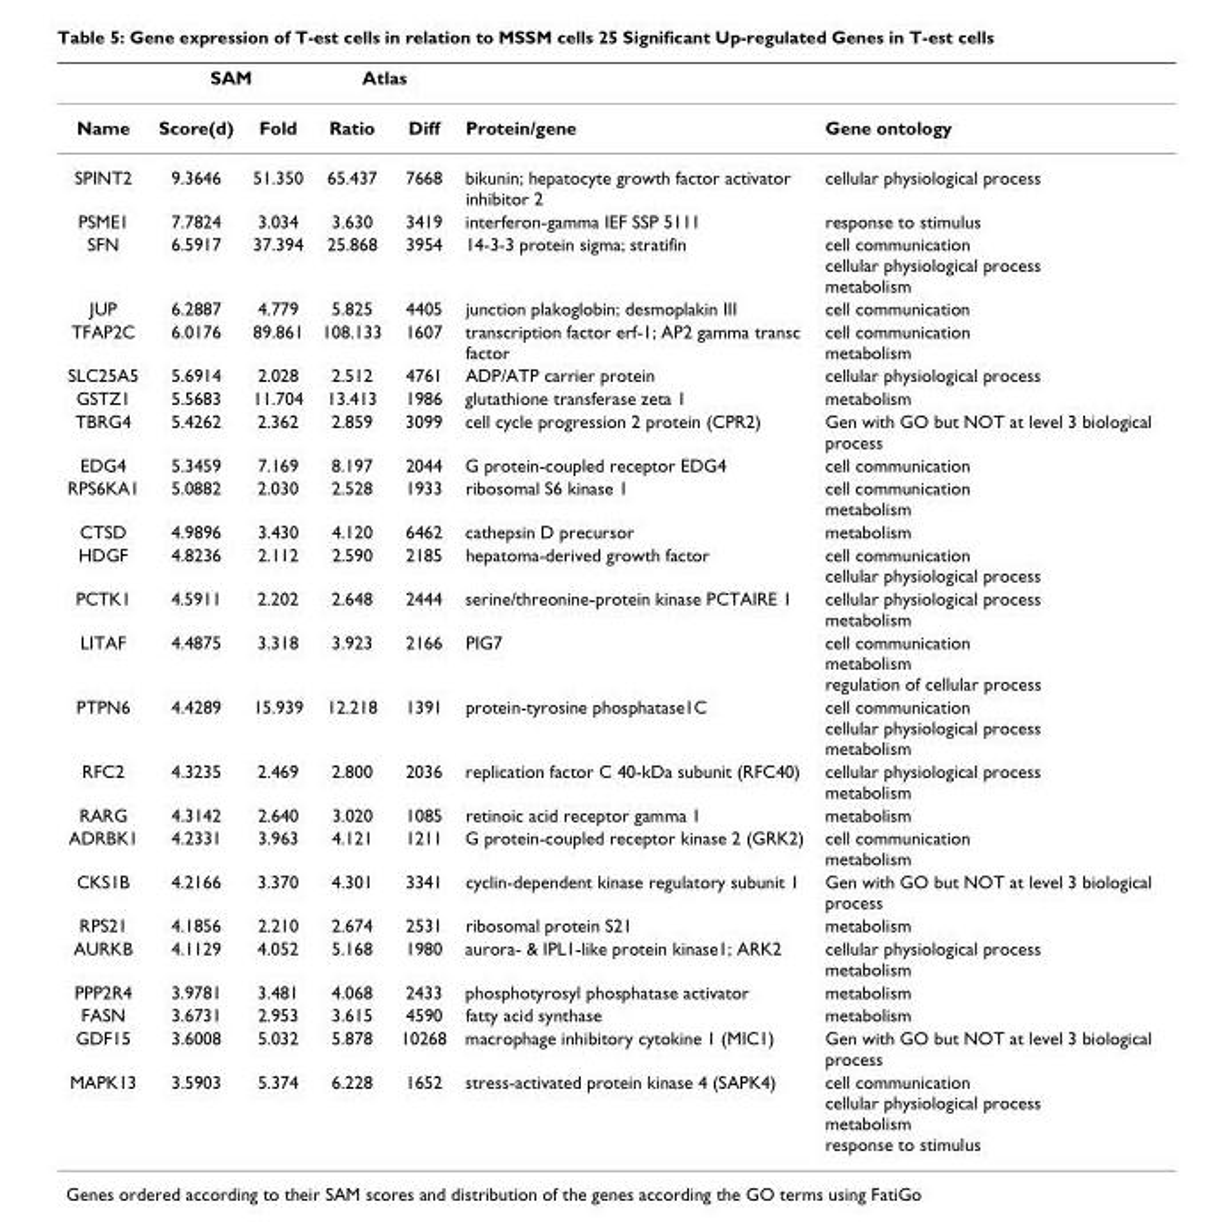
<table><thead><tr><td rowspan="2">Name</td><td colspan="2">SAM</td><td colspan="2">Atlas</td><td rowspan="2">Protein/gene</td><td rowspan="2">Gene ontology</td></tr><tr><td>Score(d)</td><td>Fold</td><td>Ratio</td><td>Diff</td></tr></thead><tbody><tr><td>SPINT2</td><td>9.3646</td><td>51.350</td><td>65.437</td><td>7668</td><td>bikunin; hepatocyte growth factor activator inhibitor 2</td><td>cellular physiological process</td></tr><tr><td>PSME1</td><td>7.7824</td><td>3.034</td><td>3.630</td><td>3419</td><td>interferon-gamma IEF SSP 5111</td><td>response to stimulus</td></tr><tr><td>SFN</td><td>6.5917</td><td>37.394</td><td>25.868</td><td>3954</td><td>14-3-3 protein sigma; stratifin</td><td>cell communication cellular physiological process metabolism</td></tr><tr><td>JUP</td><td>6.2887</td><td>4.779</td><td>5.825</td><td>4405</td><td>junction plakoglobin; desmoplakin III</td><td>cell communication</td></tr><tr><td>TFAP2C</td><td>6.0176</td><td>89.861</td><td>108.133</td><td>1607</td><td>transcription factor erf-1; AP2 gamma transc factor</td><td>cell communication metabolism</td></tr><tr><td>SLC25A5</td><td>5.6914</td><td>2.028</td><td>2.512</td><td>4761</td><td>ADP/ATP carrier protein</td><td>cellular physiological process</td></tr><tr><td>GSTZ1</td><td>5.5683</td><td>11.704</td><td>13.413</td><td>1986</td><td>glutathione transferase zeta 1</td><td>metabolism</td></tr><tr><td>TBRG4</td><td>5.4262</td><td>2.362</td><td>2.859</td><td>3099</td><td>cell cycle progression 2 protein (CPR2)</td><td>Gen with GO but NOT at level 3 biological process</td></tr><tr><td>EDG4</td><td>5.3459</td><td>7.169</td><td>8.197</td><td>2044</td><td>G protein-coupled receptor EDG4</td><td>cell communication</td></tr><tr><td>RPS6KA1</td><td>5.0882</td><td>2.030</td><td>2.528</td><td>1933</td><td>ribosomal S6 kinase 1</td><td>cell communication metabolism</td></tr><tr><td>CTSD</td><td>4.9896</td><td>3.430</td><td>4.120</td><td>6462</td><td>cathepsin D precursor</td><td>metabolism</td></tr><tr><td>HDGF</td><td>4.8236</td><td>2.112</td><td>2.590</td><td>2185</td><td>hepatoma-derived growth factor</td><td>cell communication cellular physiological process</td></tr><tr><td>PCTK1</td><td>4.5911</td><td>2.202</td><td>2.648</td><td>2444</td><td>serine/threonine-protein kinase PCTAIRE 1</td><td>cellular physiological process metabolism</td></tr><tr><td>LITAF</td><td>4.4875</td><td>3.318</td><td>3.923</td><td>2166</td><td>PIG7</td><td>cell communication metabolism regulation of cellular process</td></tr><tr><td>PTPN6</td><td>4.4289</td><td>15.939</td><td>12.218</td><td>1391</td><td>protein-tyrosine phosphatase1C</td><td>cell communication cellular physiological process metabolism</td></tr><tr><td>RFC2</td><td>4.3235</td><td>2.469</td><td>2.800</td><td>2036</td><td>replication factor C 40-kDa subunit (RFC40)</td><td>cellular physiological process metabolism</td></tr><tr><td>RARG</td><td>4.3142</td><td>2.640</td><td>3.020</td><td>1085</td><td>retinoic acid receptor gamma 1</td><td>metabolism</td></tr><tr><td>ADRBK1</td><td>4.2331</td><td>3.963</td><td>4.121</td><td>1211</td><td>G protein-coupled receptor kinase 2 (GRK2)</td><td>cell communication metabolism</td></tr><tr><td>CKS1B</td><td>4.2166</td><td>3.370</td><td>4.301</td><td>3341</td><td>cyclin-dependent kinase regulatory subunit 1</td><td>Gen with GO but NOT at level 3 biological process</td></tr><tr><td>RPS21</td><td>4.1856</td><td>2.210</td><td>2.674</td><td>2531</td><td>ribosomal protein S21</td><td>metabolism</td></tr><tr><td>AURKB</td><td>4.1129</td><td>4.052</td><td>5.168</td><td>1980</td><td>aurora- &amp; IPL1-like protein kinase1; ARK2</td><td>cellular physiological process metabolism</td></tr><tr><td>PPP2R4</td><td>3.9781</td><td>3.481</td><td>4.068</td><td>2433</td><td>phosphotyrosyl phosphatase activator</td><td>metabolism</td></tr><tr><td>FASN</td><td>3.6731</td><td>2.953</td><td>3.615</td><td>4590</td><td>fatty acid synthase</td><td>metabolism</td></tr><tr><td>GDF15</td><td>3.6008</td><td>5.032</td><td>5.878</td><td>10268</td><td>macrophage inhibitory cytokine 1 (MIC1)</td><td>Gen with GO but NOT at level 3 biological process</td></tr><tr><td>MAPK13</td><td>3.5903</td><td>5.374</td><td>6.228</td><td>1652</td><td>stress-activated protein kinase 4 (SAPK4)</td><td>cell communication cellular physiological process metabolism response to stimulus</td></tr></tbody></table>